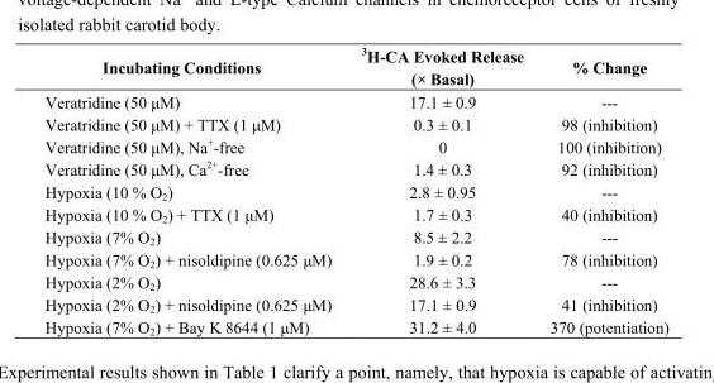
<table><thead><tr><td>Incubating Conditions</td><td><sup>3</sup>H-CA Evoked Release (× Basal)</td><td>% Change</td></tr></thead><tbody><tr><td>Veratridine (50 μM)</td><td>17.1 ± 0.9</td><td>---</td></tr><tr><td>Veratridine (50 μM) + TTX (1 μM)</td><td>0.3 ± 0.1</td><td>98 (inhibition)</td></tr><tr><td>Veratridine (50 μM), Na<sup>+</sup>-free</td><td>0</td><td>100 (inhibition)</td></tr><tr><td>Veratridine (50 μM), Ca<sup>2+</sup>-free</td><td>1.4 ± 0.3</td><td>92 (inhibition)</td></tr><tr><td>Hypoxia (10 % O<sub>2</sub>)</td><td>2.8 ± 0.95</td><td>---</td></tr><tr><td>Hypoxia (10 % O<sub>2</sub>) + TTX (1 μM)</td><td>1.7 ± 0.3</td><td>40 (inhibition)</td></tr><tr><td>Hypoxia (7% O<sub>2</sub>)</td><td>8.5 ± 2.2</td><td>---</td></tr><tr><td>Hypoxia (7% O<sub>2</sub>) + nisoldipine (0.625 μM)</td><td>1.9 ± 0.2</td><td>78 (inhibition)</td></tr><tr><td>Hypoxia (2% O<sub>2</sub>)</td><td>28.6 ± 3.3</td><td>---</td></tr><tr><td>Hypoxia (2% O<sub>2</sub>) + nisoldipine (0.625 μM)</td><td>17.1 ± 0.9</td><td>41 (inhibition)</td></tr><tr><td>Hypoxia (7% O<sub>2</sub>) + Bay K 8644 (1 μM)</td><td>31.2 ± 4.0</td><td>370 (potentiation)</td></tr></tbody></table>